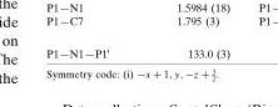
<table><tbody><tr><td>P1—N1—P1<sup>i</sup></td><td>133.0 (3)</td></tr></tbody></table>